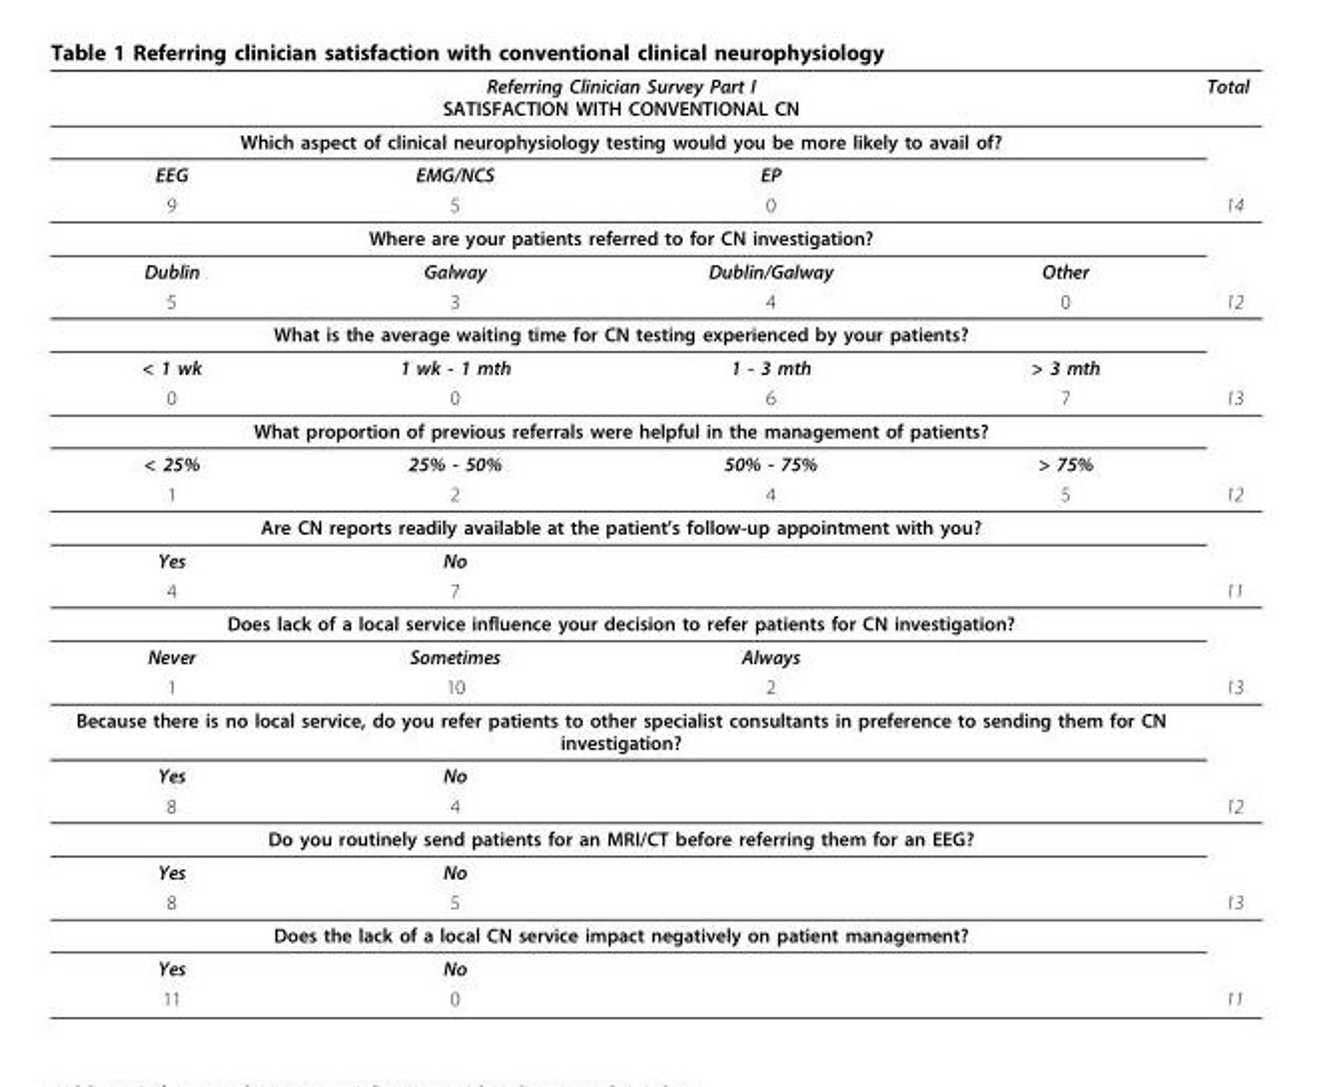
<table><thead><tr><td rowspan="2" colspan="4">Referring Clinician Survey Part I SATISFACTION WITH CONVENTIONAL CN Which aspect of clinical neurophysiology testing would you be more likely to avail of?</td><td rowspan="3">Total</td></tr><tr></tr><tr><td>EEG</td><td>EMG/NCS</td><td>EP</td><td></td></tr></thead><tbody><tr><td>9</td><td>5</td><td>0</td><td></td><td>14</td></tr><tr><td colspan="5">Where are your patients referred to for CN investigation?</td></tr><tr><td>Dublin</td><td>Galway</td><td>Dublin/Galway</td><td>Other</td><td></td></tr><tr><td>5</td><td>3</td><td>4</td><td>0</td><td>12</td></tr><tr><td colspan="5">What is the average waiting time for CN testing experienced by your patients?</td></tr><tr><td>&lt; 1 wk</td><td>1 wk - 1 mth</td><td>1 - 3 mth</td><td>&gt; 3 mth</td><td></td></tr><tr><td>0</td><td>0</td><td>6</td><td>7</td><td>13</td></tr><tr><td colspan="5">What proportion of previous referrals were helpful in the management of patients?</td></tr><tr><td>&lt; 25%</td><td>25% - 50%</td><td>50% - 75%</td><td>&gt; 75%</td><td></td></tr><tr><td>1</td><td>2</td><td>4</td><td>5</td><td>12</td></tr><tr><td colspan="5">Are CN reports readily available at the patient’s follow-up appointment with you?</td></tr><tr><td>Yes</td><td>No</td><td></td><td></td><td></td></tr><tr><td>4</td><td>7</td><td></td><td></td><td>11</td></tr><tr><td colspan="5">Does lack of a local service influence your decision to refer patients for CN investigation?</td></tr><tr><td>Never</td><td>Sometimes</td><td>Always</td><td></td><td></td></tr><tr><td>1</td><td>10</td><td>2</td><td></td><td>13</td></tr><tr><td colspan="5">Because there is no local service, do you refer patients to other specialist consultants in preference to sending them for CN investigation?</td></tr><tr><td>Yes</td><td>No</td><td></td><td></td><td></td></tr><tr><td>8</td><td>4</td><td></td><td></td><td>12</td></tr><tr><td colspan="5">Do you routinely send patients for an MRI/CT before referring them for an EEG?</td></tr><tr><td>Yes</td><td>No</td><td></td><td></td><td></td></tr><tr><td>8</td><td>5</td><td></td><td></td><td>13</td></tr><tr><td colspan="5">Does the lack of a local CN service impact negatively on patient management?</td></tr><tr><td>Yes</td><td>No</td><td></td><td></td><td></td></tr><tr><td>11</td><td>0</td><td></td><td></td><td>11</td></tr></tbody></table>